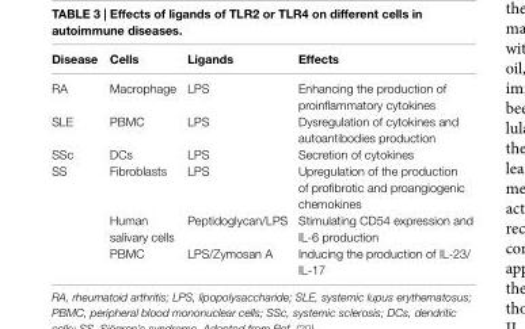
<table><thead><tr><td>Disease</td><td>Cells</td><td>Ligands</td><td>effects</td></tr></thead><tbody><tr><td>RA</td><td>Macrophage</td><td>LPS</td><td>Enhancing the production of proinflammatory cytokines</td></tr><tr><td>SLE</td><td>PBMC</td><td>LPS</td><td>Dysregulation of cytokines and autoantibodies production</td></tr><tr><td>SSc</td><td>DCs</td><td>LPS</td><td>Secretion of cytokines</td></tr><tr><td rowspan="3">SS</td><td>Fibroblasts</td><td>LPS</td><td>Upregulation of the production of profibrotic and proangiogenic chemokines</td></tr><tr><td>Human salivary cells</td><td>Peptidoglycan/LPS</td><td>Stimulating CD54 expression and IL-6 production</td></tr><tr><td>PBMC</td><td>LPS/Zymosan A</td><td>Inducing the production of IL-23/ IL-17</td></tr></tbody></table>